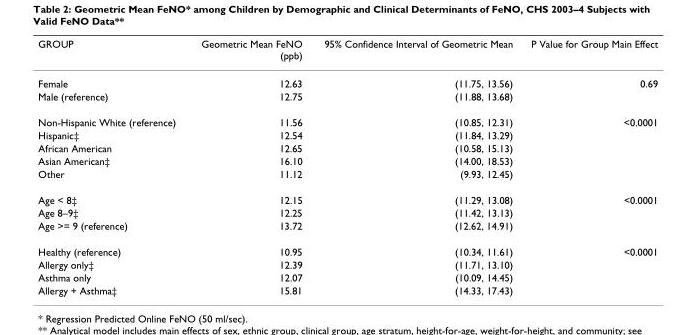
<table><thead><tr><td>GROUP</td><td>Geometric Mean FeNO (ppb)</td><td>95% Confidence Interval of Geometric Mean</td><td>P Value for Group Main Effect</td></tr></thead><tbody><tr><td>Female</td><td>12.63</td><td>(11.75, 13.56)</td><td>0.69</td></tr><tr><td>Male (reference)</td><td>12.75</td><td>(11.88, 13.68)</td><td></td></tr><tr><td>Non-Hispanic White (reference)</td><td>11.56</td><td>(10.85, 12.31)</td><td>&lt;0.0001</td></tr><tr><td>Hispanic‡</td><td>12.54</td><td>(11.84, 13.29)</td><td></td></tr><tr><td>African American</td><td>12.65</td><td>(10.58, 15.13)</td><td></td></tr><tr><td>Asian American‡</td><td>16.10</td><td>(14.00, 18.53)</td><td></td></tr><tr><td>Other</td><td>11.12</td><td>(9.93, 12.45)</td><td></td></tr><tr><td>Age &lt; 8‡</td><td>12.15</td><td>(11.29, 13.08)</td><td>&lt;0.0001</td></tr><tr><td>Age 8–9‡</td><td>12.25</td><td>(11.42, 13.13)</td><td></td></tr><tr><td>Age &gt;= 9 (reference)</td><td>13.72</td><td>(12.62, 14.91)</td><td></td></tr><tr><td>Healthy (reference)</td><td>10.95</td><td>(10.34, 11.61)</td><td>&lt;0.0001</td></tr><tr><td>Allergy only‡</td><td>12.39</td><td>(11.71, 13.10)</td><td></td></tr><tr><td>Asthma only</td><td>12.07</td><td>(10.09, 14.45)</td><td></td></tr><tr><td>Allergy + Asthma‡</td><td>15.81</td><td>(14.33, 17.43)</td><td></td></tr></tbody></table>